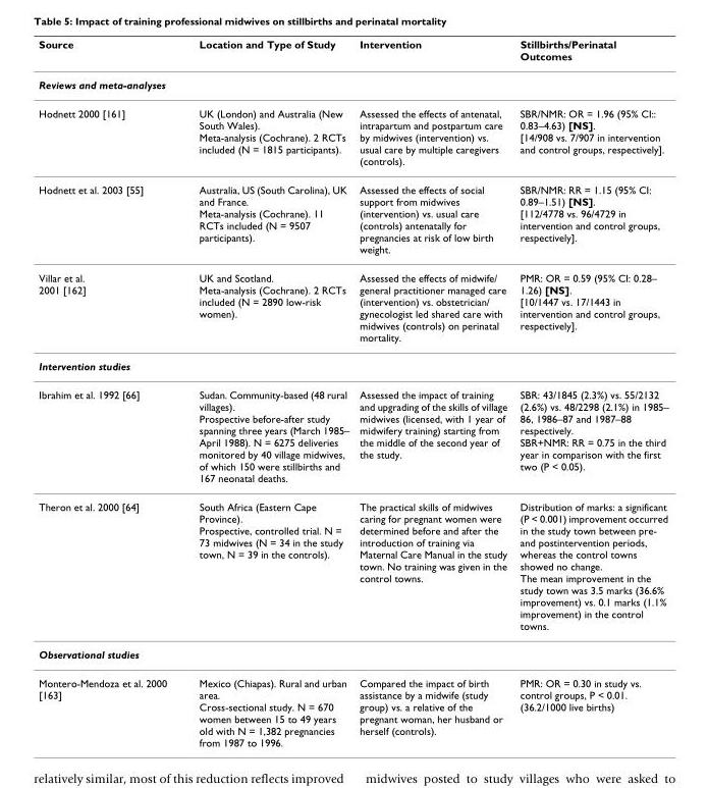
<table><thead><tr><td>Source</td><td>Location and Type of Study</td><td>Intervention</td><td>Stillbirths/Perinatal Outcomes</td></tr></thead><tbody><tr><td colspan="4">Reviews and meta-analyses</td></tr><tr><td>Hodnett 2000 [161]</td><td>UK (London) and Australia (New South Wales). Meta-analysis (Cochrane). 2 RCTs included (N = 1815 participants).</td><td>Assessed the effects of antenatal, intrapartum and postpartum care by midwives (intervention) vs. usual care by multiple caregivers (controls).</td><td>SBR/NMR: OR = 1.96 (95% CI:: 0.83–4.63) [NS]. [14/908 vs. 7/907 in intervention and control groups, respectively].</td></tr><tr><td>Hodnett et al. 2003 [55]</td><td>Australia, US (South Carolina), UK and France. Meta-analysis (Cochrane). 11 RCTs included (N = 9507 participants).</td><td>Assessed the effects of social support from midwives (intervention) vs. usual care (controls) antenatally for pregnancies at risk of low birth weight.</td><td>SBR/NMR: RR = 1.15 (95% CI: 0.89–1.51) [NS]. [112/4778 vs. 96/4729 in intervention and control groups, respectively].</td></tr><tr><td>Villar et al. 2001 [162]</td><td>UK and Scotland. Meta-analysis (Cochrane). 2 RCTs included (N = 2890 low-risk women).</td><td>Assessed the effects of midwife/ general practitioner managed care (intervention) vs. obstetrician/ gynecologist led shared care with midwives (controls) on perinatal mortality.</td><td>PMR: OR = 0.59 (95% CI: 0.28– 1.26) [NS]. [10/1447 vs. 17/1443 in intervention and control groups, respectively].</td></tr><tr><td colspan="4">Intervention studies</td></tr><tr><td>Ibrahim et al. 1992 [66]</td><td>Sudan. Community-based (48 rural villages). Prospective before-after study spanning three years (March 1985– April 1988). N = 6275 deliveries monitored by 40 village midwives, of which 150 were stillbirths and 167 neonatal deaths.</td><td>Assessed the impact of training and upgrading of the skills of village midwives (licensed, with 1 year of midwifery training) starting from the middle of the second year of the study.</td><td>SBR: 43/1845 (2.3%) vs. 55/2132 (2.6%) vs. 48/2298 (2.1%) in 1985– 86, 1986–87 and 1987–88 respectively. SBR+NMR: RR = 0.75 in the third year in comparison with the first two (P &lt; 0.05).</td></tr><tr><td>Theron et al. 2000 [64]</td><td>South Africa (Eastern Cape Province). Prospective, controlled trial. N = 73 midwives (N = 34 in the study town, N = 39 in the controls).</td><td>The practical skills of midwives caring for pregnant women were determined before and after the introduction of training via Maternal Care Manual in the study town. No training was given in the control towns.</td><td>Distribution of marks: a significant (P &lt; 0.001) improvement occurred in the study town between pre- and postintervention periods, whereas the control towns showed no change. The mean improvement in the study town was 3.5 marks (36.6% improvement) vs. 0.1 marks (1.1% improvement) in the control towns.</td></tr><tr><td colspan="4">Observational studies</td></tr><tr><td>Montero-Mendoza et al. 2000 [163]</td><td>Mexico (Chiapas). Rural and urban area. Cross-sectional study. N = 670 women between 15 to 49 years old with N = 1,382 pregnancies from 1987 to 1996.</td><td>Compared the impact of birth assistance by a midwife (study group) vs. a relative of the pregnant woman, her husband or herself (controls).</td><td>PMR: OR = 0.30 in study vs. control groups, P &lt; 0.01. (36.2/1000 live births)</td></tr></tbody></table>